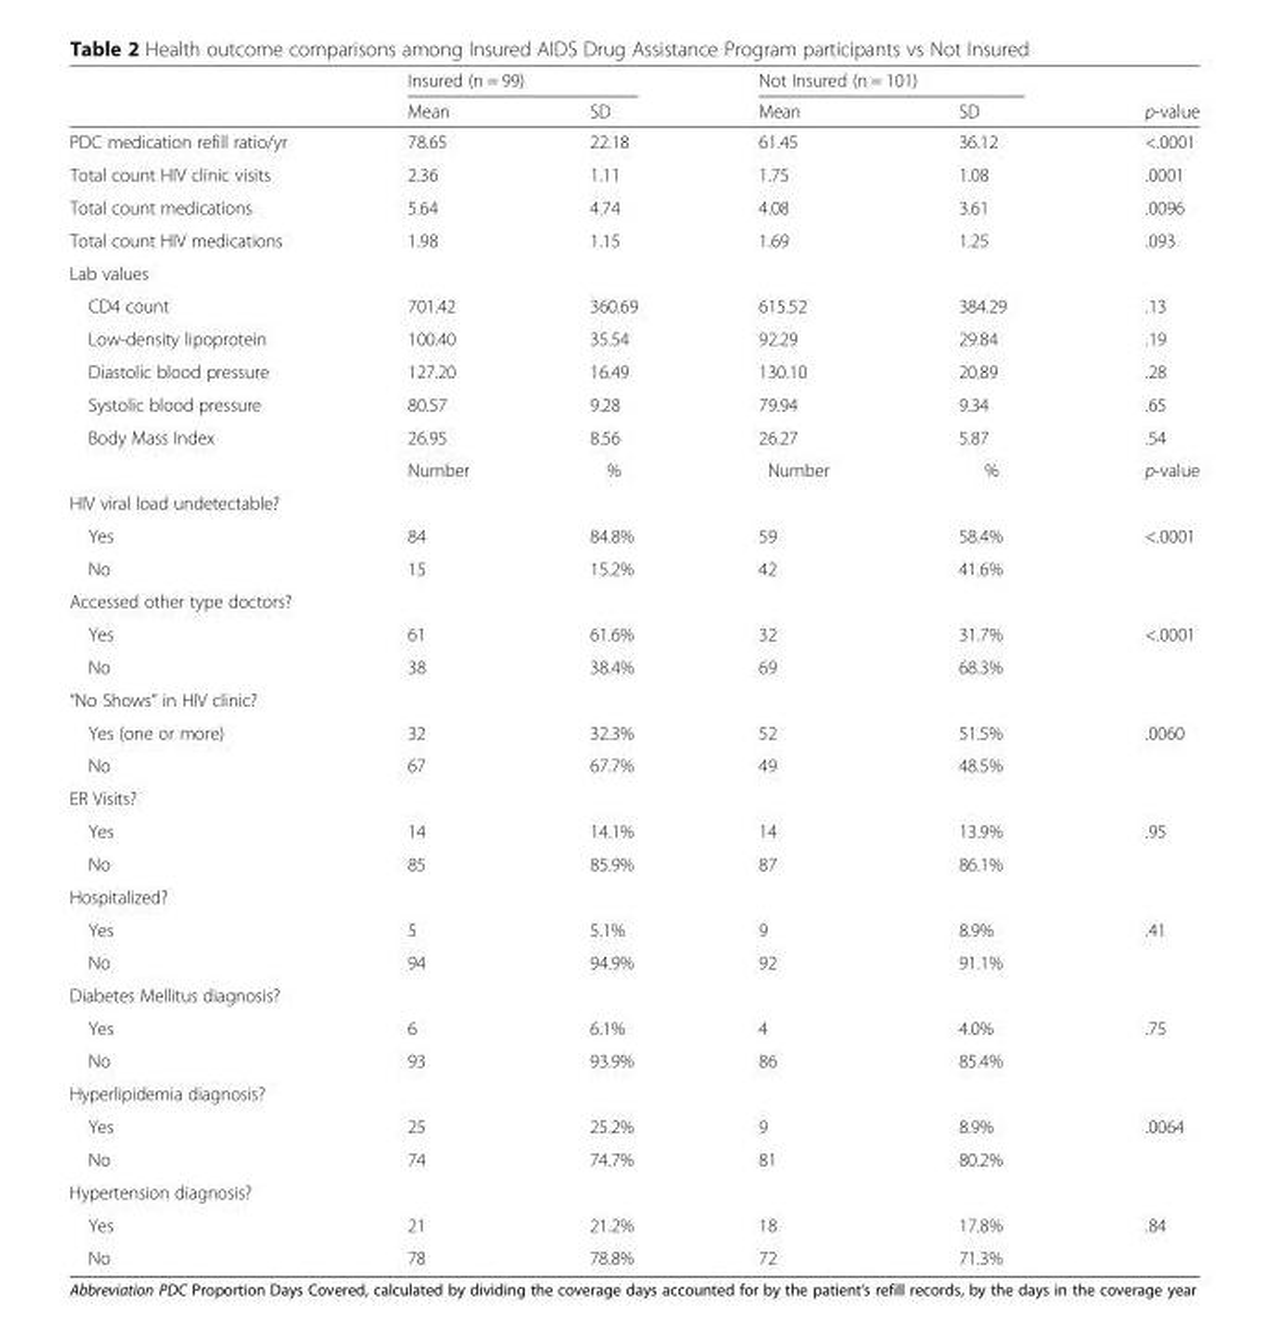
<table><thead><tr><td rowspan="2"></td><td colspan="2">Insured (n = 99)</td><td colspan="2">Not Insured (n = 101)</td><td rowspan="2">p-value</td></tr><tr><td>Mean</td><td>SD</td><td>Mean</td><td>SD</td></tr></thead><tbody><tr><td>PDC medication refill ratio/yr</td><td>78.65</td><td>22.18</td><td>61.45</td><td>36.12</td><td>&lt;.0001</td></tr><tr><td>Total count HIV clinic visits</td><td>2.36</td><td>1.11</td><td>1.75</td><td>1.08</td><td>.0001</td></tr><tr><td>Total count medications</td><td>5.64</td><td>4.74</td><td>4.08</td><td>3.61</td><td>.0096</td></tr><tr><td>Total count HIV medications</td><td>1.98</td><td>1.15</td><td>1.69</td><td>1.25</td><td>.093</td></tr><tr><td colspan="6">Lab values</td></tr><tr><td>CD4 count</td><td>701.42</td><td>360.69</td><td>615.52</td><td>384.29</td><td>.13</td></tr><tr><td>Low-density lipoprotein</td><td>100.40</td><td>35.54</td><td>92.29</td><td>29.84</td><td>.19</td></tr><tr><td>Diastolic blood pressure</td><td>127.20</td><td>16.49</td><td>130.10</td><td>20.89</td><td>.28</td></tr><tr><td>Systolic blood pressure</td><td>80.57</td><td>9.28</td><td>79.94</td><td>9.34</td><td>.65</td></tr><tr><td rowspan="2">Body Mass Index</td><td>26.95</td><td>8.56</td><td>26.27</td><td>5.87</td><td>.54</td></tr><tr><td>Number</td><td>%</td><td>Number</td><td>%</td><td>p-value</td></tr><tr><td colspan="6">HIV viral load undetectable?</td></tr><tr><td>Yes</td><td>84</td><td>84.8%</td><td>59</td><td>58.4%</td><td>&lt;.0001</td></tr><tr><td>No</td><td>15</td><td>15.2%</td><td>42</td><td>41.6%</td><td></td></tr><tr><td colspan="6">Accessed other type doctors?</td></tr><tr><td>Yes</td><td>61</td><td>61.6%</td><td>32</td><td>31.7%</td><td>&lt;.0001</td></tr><tr><td>No</td><td>38</td><td>38.4%</td><td>69</td><td>68.3%</td><td></td></tr><tr><td colspan="6">“No Shows” in HIV clinic?</td></tr><tr><td>Yes (one or more)</td><td>32</td><td>32.3%</td><td>52</td><td>51.5%</td><td>.0060</td></tr><tr><td>No</td><td>67</td><td>67.7%</td><td>49</td><td>48.5%</td><td></td></tr><tr><td colspan="6">ER Visits?</td></tr><tr><td>Yes</td><td>14</td><td>14.1%</td><td>14</td><td>13.9%</td><td>.95</td></tr><tr><td>No</td><td>85</td><td>85.9%</td><td>87</td><td>86.1%</td><td></td></tr><tr><td colspan="6">Hospitalized?</td></tr><tr><td>Yes</td><td>5</td><td>5.1%</td><td>9</td><td>8.9%</td><td>.41</td></tr><tr><td>No</td><td>94</td><td>94.9%</td><td>92</td><td>91.1%</td><td></td></tr><tr><td colspan="6">Diabetes Mellitus diagnosis?</td></tr><tr><td>Yes</td><td>6</td><td>6.1%</td><td>4</td><td>4.0%</td><td>.75</td></tr><tr><td>No</td><td>93</td><td>93.9%</td><td>86</td><td>85.4%</td><td></td></tr><tr><td colspan="6">Hyperlipidemia diagnosis?</td></tr><tr><td>Yes</td><td>25</td><td>25.2%</td><td>9</td><td>8.9%</td><td>.0064</td></tr><tr><td>No</td><td>74</td><td>74.7%</td><td>81</td><td>80.2%</td><td></td></tr><tr><td colspan="6">Hypertension diagnosis?</td></tr><tr><td>Yes</td><td>21</td><td>21.2%</td><td>18</td><td>17.8%</td><td>.84</td></tr><tr><td>No</td><td>78</td><td>78.8%</td><td>72</td><td>71.3%</td><td></td></tr></tbody></table>